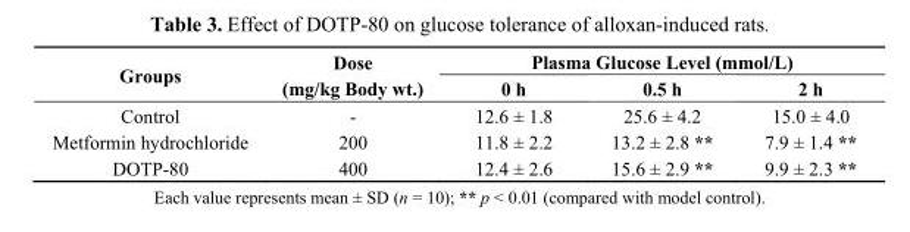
<table><thead><tr><td rowspan="2">Groups</td><td rowspan="2">Dose (mg/kg Body wt.)</td><td colspan="3">Plasma Glucose Level (mmol/L)</td></tr><tr><td>0 h</td><td>0.5 h</td><td>2 h</td></tr></thead><tbody><tr><td>Control</td><td>-</td><td>12.6 ± 1.8</td><td>25.6 ± 4.2</td><td>15.0 ± 4.0</td></tr><tr><td>Metformin hydrochloride</td><td>200</td><td>11.8 ± 2.2</td><td>13.2 ± 2.8 **</td><td>7.9 ± 1.4 **</td></tr><tr><td>DOTP-80</td><td>400</td><td>12.4 ± 2.6</td><td>15.6 ± 2.9 **</td><td>9.9 ± 2.3 **</td></tr></tbody></table>